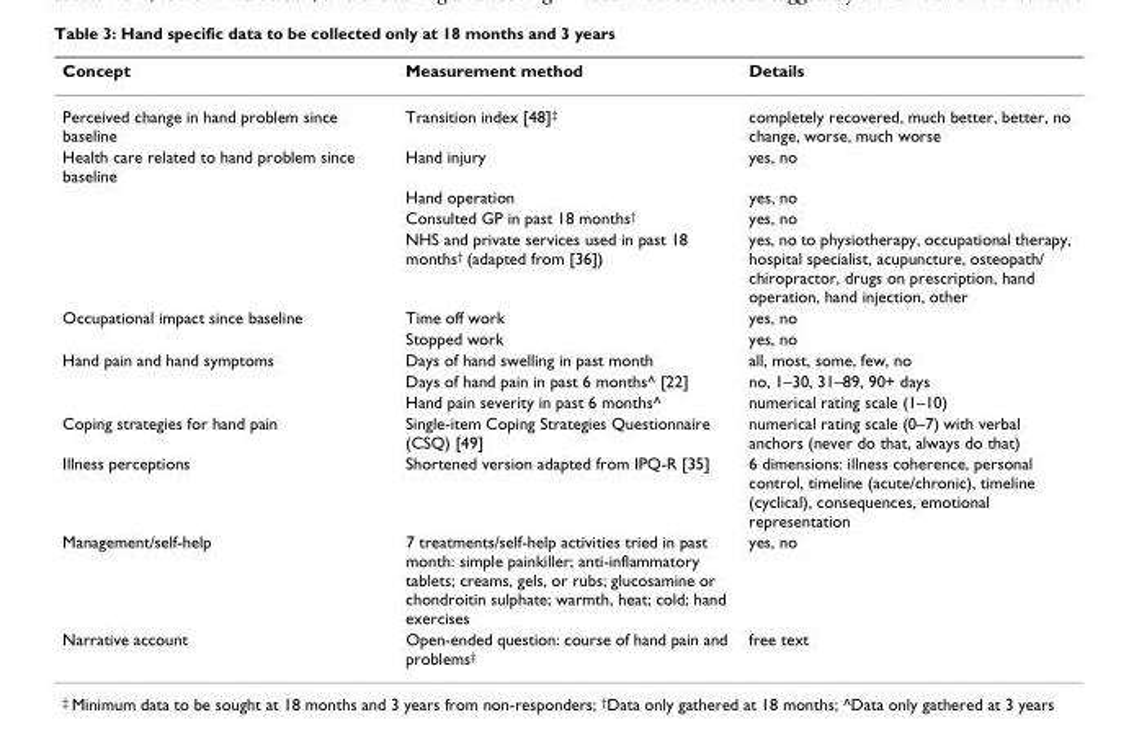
<table><thead><tr><td>Concept</td><td>Measurement method</td><td>Details</td></tr></thead><tbody><tr><td>Perceived change in hand problem since baseline</td><td>Transition index [48]<sup>‡</sup></td><td>completely recovered, much better, better, no change, worse, much worse</td></tr><tr><td rowspan="4">Health care related to hand problem since baseline</td><td>Hand injury</td><td>yes, no</td></tr><tr><td>Hand operation</td><td>yes, no</td></tr><tr><td>Consulted GP in past 18 months<sup>†</sup></td><td>yes, no</td></tr><tr><td>NHS and private services used in past 18 months<sup>†</sup> (adapted from [36])</td><td>yes, no to physiotherapy, occupational therapy, hospital specialist, acupuncture, osteopath/ chiropractor, drugs on prescription, hand operation, hand injection, other</td></tr><tr><td rowspan="2">Occupational impact since baseline</td><td>Time off work</td><td>yes, no</td></tr><tr><td>Stopped work</td><td>yes, no</td></tr><tr><td rowspan="3">Hand pain and hand symptoms</td><td>Days of hand swelling in past month</td><td>all, most, some, few, no</td></tr><tr><td>Days of hand pain in past 6 months^ [22]</td><td>no, 1–30, 31–89, 90+ days</td></tr><tr><td>Hand pain severity in past 6 months^</td><td>numerical rating scale (1–10)</td></tr><tr><td>Coping strategies for hand pain</td><td>Single-item Coping Strategies Questionnaire (CSQ) [49]</td><td>numerical rating scale (0–7) with verbal anchors (never do that, always do that)</td></tr><tr><td>Illness perceptions</td><td>Shortened version adapted from IPQ-R [35]</td><td>6 dimensions: illness coherence, personal control, timeline (acute/chronic), timeline (cyclical), consequences, emotional representation</td></tr><tr><td>Management/self-help</td><td>7 treatments/self-help activities tried in past month: simple painkiller; anti-inflammatory tablets; creams, gels, or rubs; glucosamine or chondroitin sulphate; warmth, heat; cold; hand exercises</td><td>yes, no</td></tr><tr><td>Narrative account</td><td>Open-ended question: course of hand pain and problems<sup>‡</sup></td><td>free text</td></tr></tbody></table>